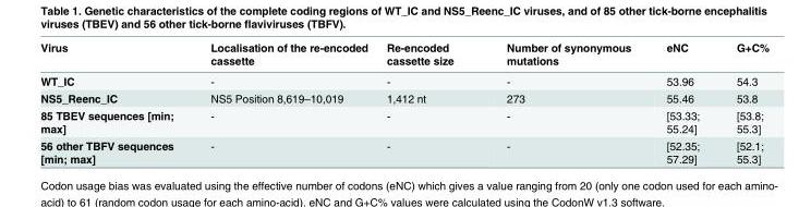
<table><thead><tr><td>Virus</td><td>Localisation of the re-encoded cassette</td><td>Re-encoded cassette size</td><td>Number of synonymous mutations</td><td>eNC</td><td>G+C%</td></tr></thead><tbody><tr><td>WT_IC</td><td>-</td><td>-</td><td>-</td><td>53.96</td><td>54.3</td></tr><tr><td>NS5_Reenc_IC</td><td>NS5 Position 8,619–10,019</td><td>1,412 nt</td><td>273</td><td>55.46</td><td>53.8</td></tr><tr><td>85 TBEV sequences [min; max]</td><td>-</td><td>-</td><td>-</td><td>[53.33; 55.24]</td><td>[53.8; 55.3]</td></tr><tr><td>56 other TBFV sequences [min; max]</td><td>-</td><td>-</td><td>-</td><td>[52.35; 57.29]</td><td>[52.1; 55.3]</td></tr></tbody></table>